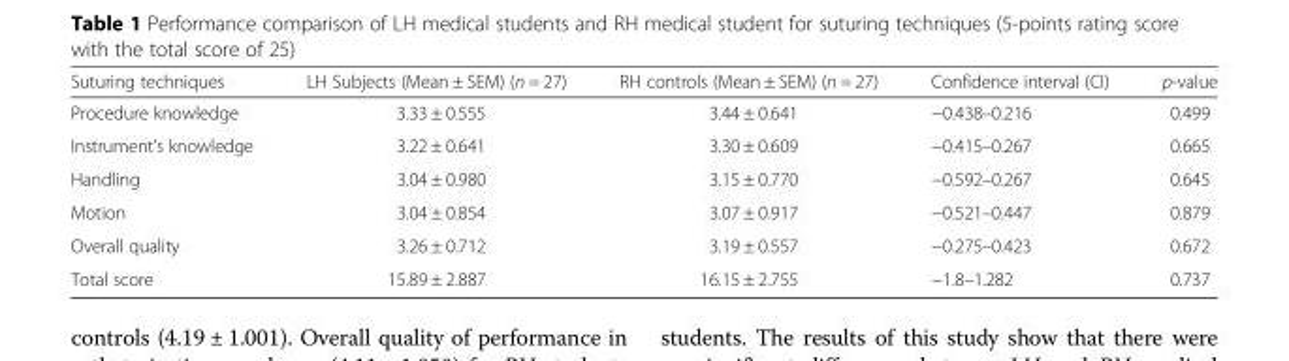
<table><thead><tr><td>Suturing techniques</td><td>LH Subjects (Mean ± SEM) (n = 27)</td><td>RH controls (Mean ± SEM) (n = 27)</td><td>Confidence interval (CI)</td><td>p-value</td></tr></thead><tbody><tr><td>Procedure knowledge</td><td>3.33 ± 0.555</td><td>3.44 ± 0.641</td><td>−0.438–0.216</td><td>0.499</td></tr><tr><td>Instrument’s knowledge</td><td>3.22 ± 0.641</td><td>3.30 ± 0.609</td><td>−0.415–0.267</td><td>0.665</td></tr><tr><td>Handling</td><td>3.04 ± 0.980</td><td>3.15 ± 0.770</td><td>−0.592–0.267</td><td>0.645</td></tr><tr><td>Motion</td><td>3.04 ± 0.854</td><td>3.07 ± 0.917</td><td>−0.521–0.447</td><td>0.879</td></tr><tr><td>Overall quality</td><td>3.26 ± 0.712</td><td>3.19 ± 0.557</td><td>−0.275–0.423</td><td>0.672</td></tr><tr><td>Total score</td><td>15.89 ± 2.887</td><td>16.15 ± 2.755</td><td>−1.8–1.282</td><td>0.737</td></tr></tbody></table>